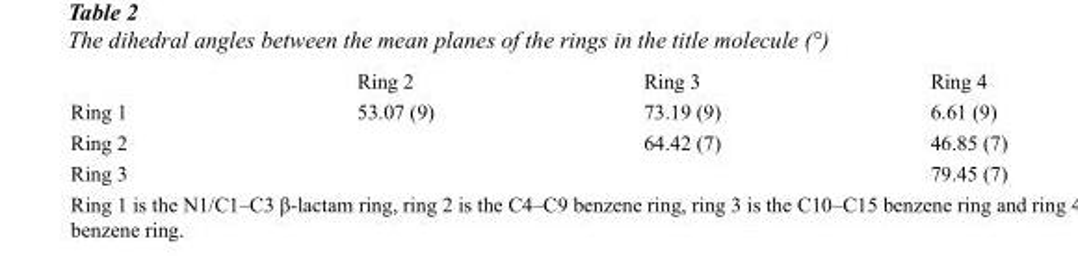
<table><thead><tr><td></td><td>Ring 2</td><td>Ring 3</td><td>Ring 4</td></tr></thead><tbody><tr><td>Ring 1</td><td>53.07 (9)</td><td>73.19 (9)</td><td>6.61 (9)</td></tr><tr><td>Ring 2</td><td></td><td>64.42 (7)</td><td>46.85 (7)</td></tr><tr><td>Ring 3</td><td></td><td></td><td>79.45 (7)</td></tr></tbody></table>